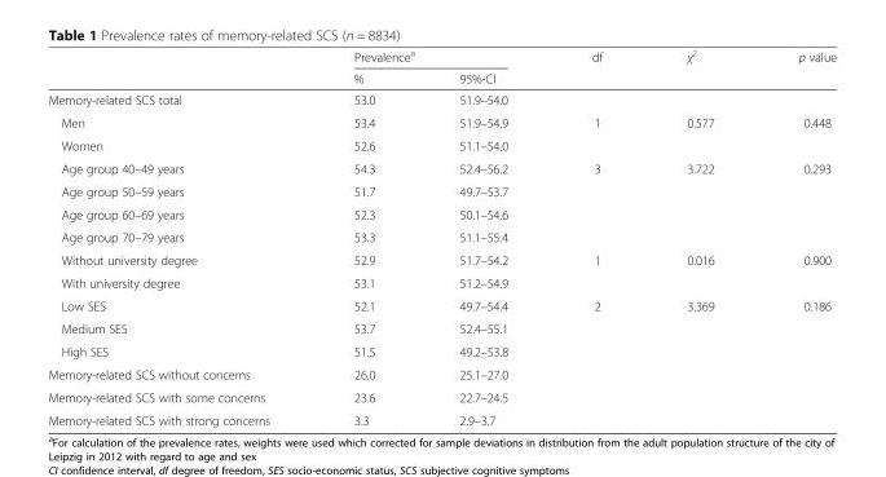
<table><thead><tr><td rowspan="2"></td><td colspan="2">Prevalence<sup>a</sup></td><td rowspan="2">df</td><td rowspan="2">χ<sup>2</sup></td><td rowspan="2">p value</td></tr><tr><td>%</td><td>95%-CI</td></tr></thead><tbody><tr><td>Memory-related SCS total</td><td>53.0</td><td>51.9–54.0</td><td></td><td></td><td></td></tr><tr><td>Men</td><td>53.4</td><td>51.9–54.9</td><td rowspan="2">1</td><td rowspan="2">0.577</td><td rowspan="2">0.448</td></tr><tr><td>Women</td><td>52.6</td><td>51.1–54.0</td></tr><tr><td>Age group 40–49 years</td><td>54.3</td><td>52.4–56.2</td><td rowspan="4">3</td><td rowspan="4">3.722</td><td rowspan="4">0.293</td></tr><tr><td>Age group 50–59 years</td><td>51.7</td><td>49.7–53.7</td></tr><tr><td>Age group 60–69 years</td><td>52.3</td><td>50.1–54.6</td></tr><tr><td>Age group 70–79 years</td><td>53.3</td><td>51.1–55.4</td></tr><tr><td>Without university degree</td><td>52.9</td><td>51.7–54.2</td><td rowspan="2">1</td><td rowspan="2">0.016</td><td rowspan="2">0.900</td></tr><tr><td>With university degree</td><td>53.1</td><td>51.2–54.9</td></tr><tr><td>Low SES</td><td>52.1</td><td>49.7–54.4</td><td rowspan="3">2</td><td rowspan="3">3.369</td><td rowspan="3">0.186</td></tr><tr><td>Medium SES</td><td>53.7</td><td>52.4–55.1</td></tr><tr><td>High SES</td><td>51.5</td><td>49.2–53.8</td></tr><tr><td>Memory-related SCS without concerns</td><td>26.0</td><td>25.1–27.0</td><td></td><td></td><td></td></tr><tr><td>Memory-related SCS with some concerns</td><td>23.6</td><td>22.7–24.5</td><td></td><td></td><td></td></tr><tr><td>Memory-related SCS with strong concerns</td><td>3.3</td><td>2.9–3.7</td><td></td><td></td><td></td></tr></tbody></table>